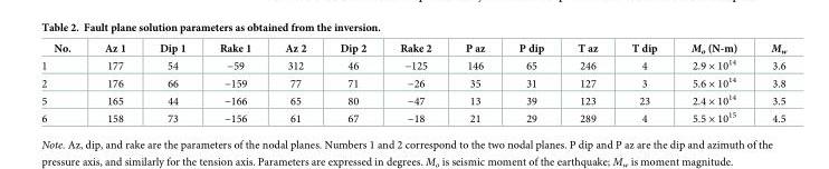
<table><thead><tr><td>No.</td><td>Az 1</td><td>Dip 1</td><td>Rake 1</td><td>Az 2</td><td>Dip 2</td><td>Rake 2</td><td>P az</td><td>P dip</td><td>T az</td><td>T dip</td><td>M<sub>o</sub> (N-m)</td><td>M<sub>w</sub></td></tr></thead><tbody><tr><td>1</td><td>177</td><td>54</td><td>−59</td><td>312</td><td>46</td><td>−125</td><td>146</td><td>65</td><td>246</td><td>4</td><td>2.9 × 10<sup>14</sup></td><td>3.6</td></tr><tr><td>2</td><td>176</td><td>66</td><td>−159</td><td>77</td><td>71</td><td>−26</td><td>35</td><td>31</td><td>127</td><td>3</td><td>5.6 × 10<sup>14</sup></td><td>3.8</td></tr><tr><td>5</td><td>165</td><td>44</td><td>−166</td><td>65</td><td>80</td><td>−47</td><td>13</td><td>39</td><td>123</td><td>23</td><td>2.4 × 10<sup>14</sup></td><td>3.5</td></tr><tr><td>6</td><td>158</td><td>73</td><td>−156</td><td>61</td><td>67</td><td>−18</td><td>21</td><td>29</td><td>289</td><td>4</td><td>5.5 × 10<sup>15</sup></td><td>4.5</td></tr></tbody></table>